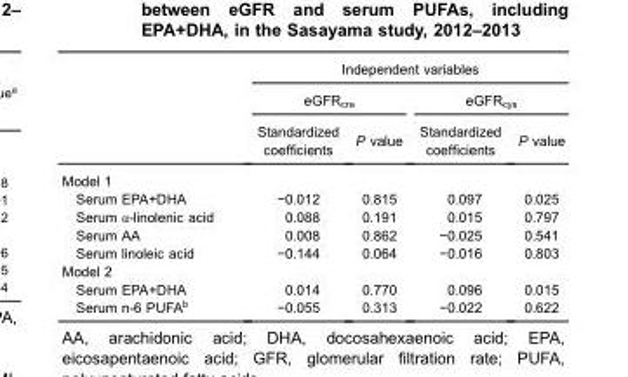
<table><thead><tr><td rowspan="3"></td><td colspan="4">Independent variables</td></tr><tr><td colspan="2">eGFR<sub>cre</sub></td><td colspan="2">eGFR<sub>cys</sub></td></tr><tr><td>Standardized coefficients</td><td>P value</td><td>Standardized coefficients</td><td>P value</td></tr></thead><tbody><tr><td colspan="5">Model 1</td></tr><tr><td>Serum EPA+DHA</td><td>−0.012</td><td>0.815</td><td>0.097</td><td>0.025</td></tr><tr><td>Serum α-linolenic acid</td><td>0.088</td><td>0.191</td><td>0.015</td><td>0.797</td></tr><tr><td>Serum AA</td><td>0.008</td><td>0.862</td><td>−0.025</td><td>0.541</td></tr><tr><td>Serum linoleic acid</td><td>−0.144</td><td>0.064</td><td>−0.016</td><td>0.803</td></tr><tr><td colspan="5">Model 2</td></tr><tr><td>Serum EPA+DHA</td><td>0.014</td><td>0.770</td><td>0.096</td><td>0.015</td></tr><tr><td>Serum n-6 PUFA<sup>b</sup></td><td>−0.055</td><td>0.313</td><td>−0.022</td><td>0.622</td></tr></tbody></table>